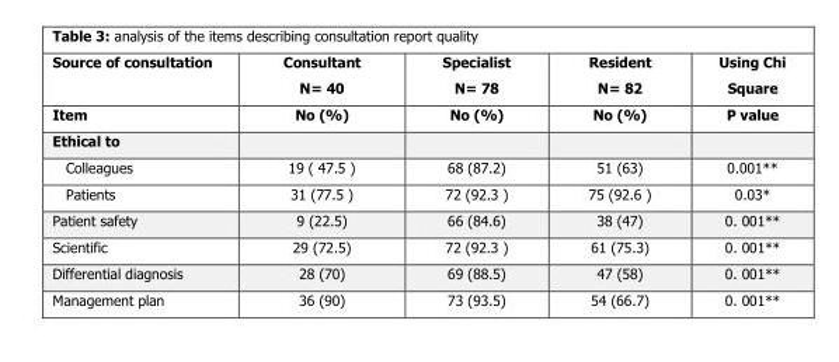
<table><thead><tr><td>Source of consultation</td><td>Consultant N= 40</td><td>Specialist N= 78</td><td>Resident N= 82</td><td>Using Chi Square</td></tr></thead><tbody><tr><td>Item</td><td>No (%)</td><td>No (%)</td><td>No (%)</td><td>P value</td></tr><tr><td colspan="5">Ethical to</td></tr><tr><td>Colleagues</td><td>19 ( 47.5 )</td><td>68 (87.2)</td><td>51 (63)</td><td>0.001**</td></tr><tr><td>Patients</td><td>31 (77.5 )</td><td>72 (92.3 )</td><td>75 (92.6 )</td><td>0.03*</td></tr><tr><td>Patient safety</td><td>9 (22.5)</td><td>66 (84.6)</td><td>38 (47)</td><td>0. 001**</td></tr><tr><td>Scientific</td><td>29 (72.5)</td><td>72 (92.3 )</td><td>61 (75.3)</td><td>0. 001**</td></tr><tr><td>Differential diagnosis</td><td>28 (70)</td><td>69 (88.5)</td><td>47 (58)</td><td>0. 001**</td></tr><tr><td>Management plan</td><td>36 (90)</td><td>73 (93.5)</td><td>54 (66.7)</td><td>0. 001**</td></tr></tbody></table>